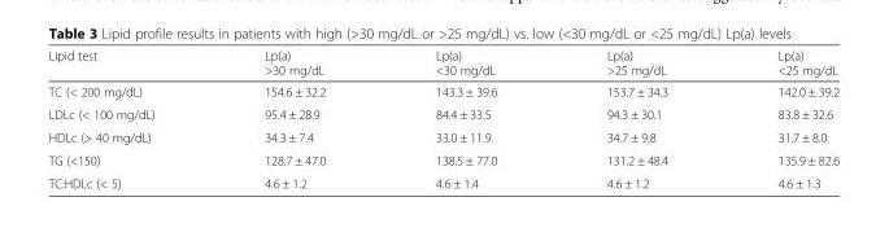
<table><thead><tr><td>Lipid test</td><td>Lp(a) &gt;30 mg/dL</td><td>Lp(a) &lt;30 mg/dL</td><td>Lp(a) &gt;25 mg/dL</td><td>Lp(a) &lt;25 mg/dL</td></tr></thead><tbody><tr><td>TC (&lt; 200 mg/dL)</td><td>154.6 ± 32.2</td><td>143.3 ± 39.6</td><td>153.7 ± 34.3</td><td>142.0 ± 39.2</td></tr><tr><td>LDLc (&lt; 100 mg/dL)</td><td>95.4 ± 28.9</td><td>84.4 ± 33.5</td><td>94.3 ± 30.1</td><td>83.8 ± 32.6</td></tr><tr><td>HDLc (&gt; 40 mg/dL)</td><td>34.3 ± 7.4</td><td>33.0 ± 11.9</td><td>34.7 ± 9.8</td><td>31.7 ± 8.0</td></tr><tr><td>TG (&lt;150)</td><td>128.7 ± 47.0</td><td>138.5 ± 77.0</td><td>131.2 ± 48.4</td><td>135.9 ± 82.6</td></tr><tr><td>TC:HDLc (&lt; 5)</td><td>4.6 ± 1.2</td><td>4.6 ± 1.4</td><td>4.6 ± 1.2</td><td>4.6 ± 1.3</td></tr></tbody></table>